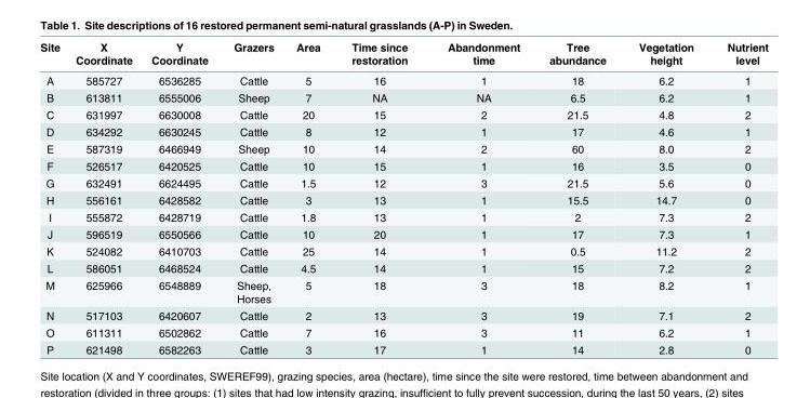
<table><thead><tr><td>Site</td><td>X Coordinate</td><td>Y Coordinate</td><td>Grazers</td><td>Area</td><td>Time since restoration</td><td>Abandonment time</td><td>Tree abundance</td><td>Vegetation height</td><td>Nutrient level</td></tr></thead><tbody><tr><td>A</td><td>585727</td><td>6536285</td><td>Cattle</td><td>5</td><td>16</td><td>1</td><td>18</td><td>6.2</td><td>1</td></tr><tr><td>B</td><td>613811</td><td>6555006</td><td>Sheep</td><td>7</td><td>NA</td><td>NA</td><td>6.5</td><td>6.2</td><td>1</td></tr><tr><td>C</td><td>631997</td><td>6630008</td><td>Cattle</td><td>20</td><td>15</td><td>2</td><td>21.5</td><td>4.8</td><td>2</td></tr><tr><td>D</td><td>634292</td><td>6630245</td><td>Cattle</td><td>8</td><td>12</td><td>1</td><td>17</td><td>4.6</td><td>1</td></tr><tr><td>E</td><td>587319</td><td>6466949</td><td>Sheep</td><td>10</td><td>14</td><td>2</td><td>60</td><td>8.0</td><td>2</td></tr><tr><td>F</td><td>526517</td><td>6420525</td><td>Cattle</td><td>10</td><td>15</td><td>1</td><td>16</td><td>3.5</td><td>0</td></tr><tr><td>G</td><td>632491</td><td>6624495</td><td>Cattle</td><td>1.5</td><td>12</td><td>3</td><td>21.5</td><td>5.6</td><td>0</td></tr><tr><td>H</td><td>556161</td><td>6428582</td><td>Cattle</td><td>3</td><td>13</td><td>1</td><td>15.5</td><td>14.7</td><td>0</td></tr><tr><td>I</td><td>555872</td><td>6428719</td><td>Cattle</td><td>1.8</td><td>13</td><td>1</td><td>2</td><td>7.3</td><td>2</td></tr><tr><td>J</td><td>596519</td><td>6550566</td><td>Cattle</td><td>10</td><td>20</td><td>1</td><td>17</td><td>7.3</td><td>1</td></tr><tr><td>K</td><td>524082</td><td>6410703</td><td>Cattle</td><td>25</td><td>14</td><td>1</td><td>0.5</td><td>11.2</td><td>2</td></tr><tr><td>L</td><td>586051</td><td>6468524</td><td>Cattle</td><td>4.5</td><td>14</td><td>1</td><td>15</td><td>7.2</td><td>2</td></tr><tr><td>M</td><td>625966</td><td>6548889</td><td>Sheep, Horses</td><td>5</td><td>18</td><td>3</td><td>18</td><td>8.2</td><td>1</td></tr><tr><td>N</td><td>517103</td><td>6420607</td><td>Cattle</td><td>2</td><td>13</td><td>3</td><td>19</td><td>7.1</td><td>2</td></tr><tr><td>O</td><td>611311</td><td>6502862</td><td>Cattle</td><td>7</td><td>16</td><td>3</td><td>11</td><td>6.2</td><td>1</td></tr><tr><td>P</td><td>621498</td><td>6582263</td><td>Cattle</td><td>3</td><td>17</td><td>1</td><td>14</td><td>2.8</td><td>0</td></tr></tbody></table>